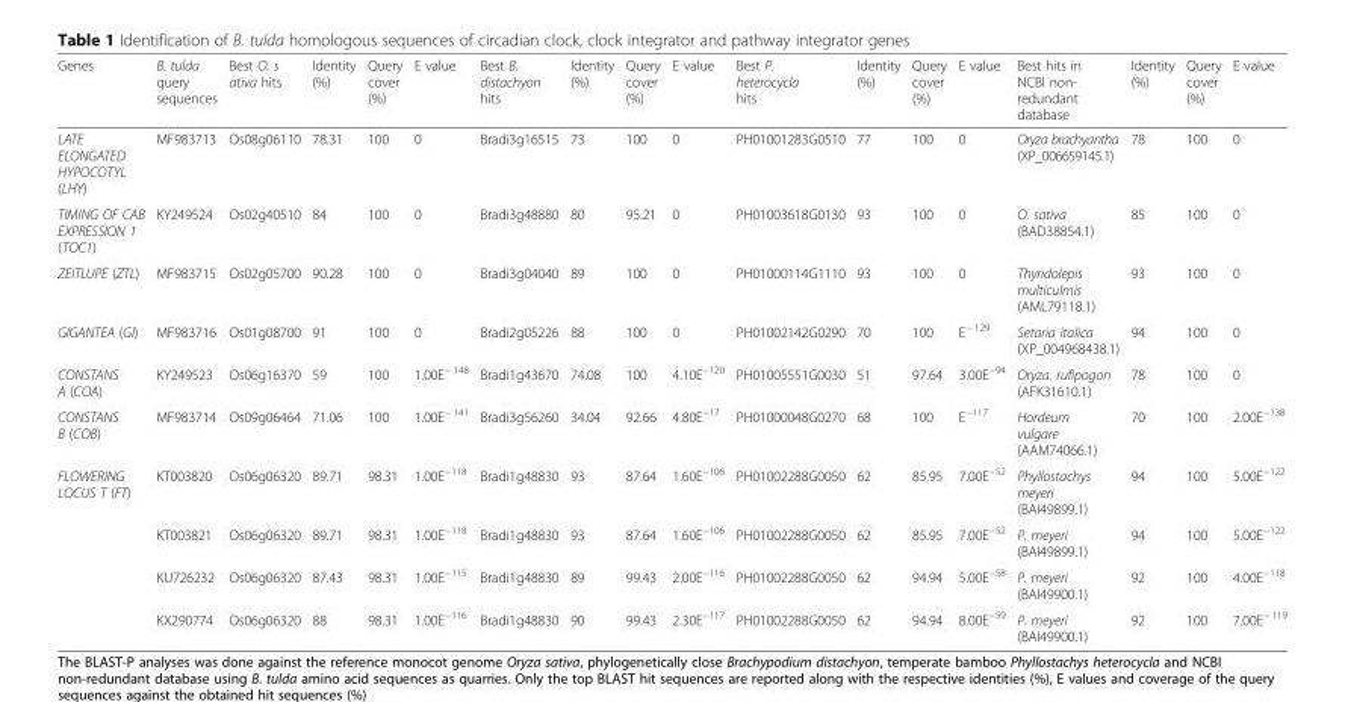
<table><thead><tr><td>Genes</td><td>B. tulda query sequences</td><td>Best O. s ativa hits</td><td>Identity (%)</td><td>Query cover (%)</td><td>E value</td><td>Best B. distachyon hits</td><td>Identity (%)</td><td>Query cover (%)</td><td>E value</td><td>Best P. heterocycla hits</td><td>Identity (%)</td><td>Query cover (%)</td><td>E value</td><td>Best hits in NCBI non- redundant database</td><td>Identity (%)</td><td>Query cover (%)</td><td>E value</td></tr></thead><tbody><tr><td>LATE ELONGATED HYPOCOTYL (LHY)</td><td>MF983713</td><td>Os08g06110</td><td>78.31</td><td>100</td><td>0</td><td>Bradi3g16515</td><td>73</td><td>100</td><td>0</td><td>PH01001283G0510</td><td>77</td><td>100</td><td>0</td><td>Oryza brachyantha (XP_006659145.1)</td><td>78</td><td>100</td><td>0</td></tr><tr><td>TIMING OF CAB EXPRESSION 1 (TOC1)</td><td>KY249524</td><td>Os02g40510</td><td>84</td><td>100</td><td>0</td><td>Bradi3g48880</td><td>80</td><td>95.21</td><td>0</td><td>PH01003618G0130</td><td>93</td><td>100</td><td>0</td><td>O. sativa (BAD38854.1)</td><td>85</td><td>100</td><td>0</td></tr><tr><td>ZEITLUPE (ZTL)</td><td>MF983715</td><td>Os02g05700</td><td>90.28</td><td>100</td><td>0</td><td>Bradi3g04040</td><td>89</td><td>100</td><td>0</td><td>PH01000114G1110</td><td>93</td><td>100</td><td>0</td><td>Thyridolepis multiculmis (AML79118.1)</td><td>93</td><td>100</td><td>0</td></tr><tr><td>GIGANTEA (GI)</td><td>MF983716</td><td>Os01g08700</td><td>91</td><td>100</td><td>0</td><td>Bradi2g05226</td><td>88</td><td>100</td><td>0</td><td>PH01002142G0290</td><td>70</td><td>100</td><td>E<sup>− 129</sup></td><td>Setaria italica (XP_004968438.1)</td><td>94</td><td>100</td><td>0</td></tr><tr><td>CONSTANS A (COA)</td><td>KY249523</td><td>Os06g16370</td><td>59</td><td>100</td><td>1.00E<sup>− 148</sup></td><td>Bradi1g43670</td><td>74.08</td><td>100</td><td>4.10E<sup>−120</sup></td><td>PH01005551G0030</td><td>51</td><td>97.64</td><td>3.00E<sup>−94</sup></td><td>Oryza. rufipogon (AFK31610.1)</td><td>78</td><td>100</td><td>0</td></tr><tr><td>CONSTANS B (COB)</td><td>MF983714</td><td>Os09g06464</td><td>71.06</td><td>100</td><td>1.00E<sup>− 141</sup></td><td>Bradi3g56260</td><td>34.04</td><td>92.66</td><td>4.80E<sup>−17</sup></td><td>PH01000048G0270</td><td>68</td><td>100</td><td>E<sup>−117</sup></td><td>Hordeum vulgare (AAM74066.1)</td><td>70</td><td>100</td><td>2.00E<sup>−138</sup></td></tr><tr><td rowspan="4">FLOWERING LOCUS T (FT)</td><td>KT003820</td><td>Os06g06320</td><td>89.71</td><td>98.31</td><td>1.00E<sup>−118</sup></td><td>Bradi1g48830</td><td>93</td><td>87.64</td><td>1.60E<sup>−106</sup></td><td>PH01002288G0050</td><td>62</td><td>85.95</td><td>7.00E<sup>−52</sup></td><td>Phyllostachys meyeri (BAI49899.1)</td><td>94</td><td>100</td><td>5.00E<sup>−122</sup></td></tr><tr><td>KT003821</td><td>Os06g06320</td><td>89.71</td><td>98.31</td><td>1.00E<sup>−118</sup></td><td>Bradi1g48830</td><td>93</td><td>87.64</td><td>1.60E<sup>−106</sup></td><td>PH01002288G0050</td><td>62</td><td>85.95</td><td>7.00E<sup>−52</sup></td><td>P. meyeri (BAI49899.1)</td><td>94</td><td>100</td><td>5.00E<sup>−122</sup></td></tr><tr><td>KU726232</td><td>Os06g06320</td><td>87.43</td><td>98.31</td><td>1.00E<sup>−115</sup></td><td>Bradi1g48830</td><td>89</td><td>99.43</td><td>2.00E<sup>−116</sup></td><td>PH01002288G0050</td><td>62</td><td>94.94</td><td>5.00E<sup>−58</sup></td><td>P. meyeri (BAI49900.1)</td><td>92</td><td>100</td><td>4.00E<sup>−118</sup></td></tr><tr><td>KX290774</td><td>Os06g06320</td><td>88</td><td>98.31</td><td>1.00E<sup>−116</sup></td><td>Bradi1g48830</td><td>90</td><td>99.43</td><td>2.30E<sup>−117</sup></td><td>PH01002288G0050</td><td>62</td><td>94.94</td><td>8.00E<sup>−59</sup></td><td>P. meyeri (BAI49900.1)</td><td>92</td><td>100</td><td>7.00E<sup>− 119</sup></td></tr></tbody></table>